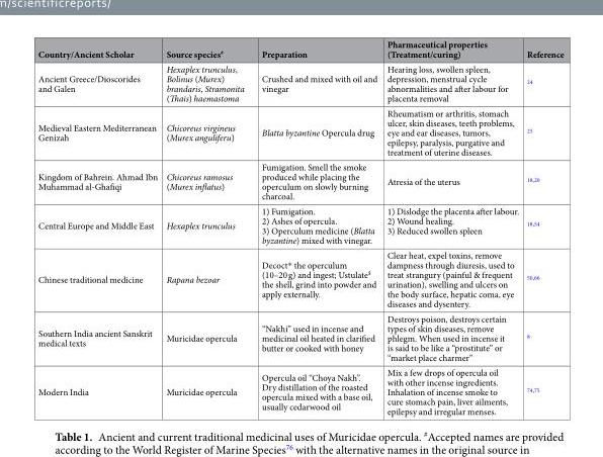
<table><thead><tr><td>Country/Ancient Scholar</td><td>Source species<sup>#</sup></td><td>Preparation</td><td>Pharmaceutical properties (Treatment/curing)</td><td>Reference</td></tr></thead><tbody><tr><td>Ancient Greece/Dioscorides and Galen</td><td>Hexaplex trunculus, Bolinus (Murex) brandaris, Stramonita (Thais) haemastoma</td><td>Crushed and mixed with oil and vinegar</td><td>Hearing loss, swollen spleen, depression, menstrual cycle abnormalities and after labour for placenta removal</td><td><sup>24</sup></td></tr><tr><td>Medieval Eastern Mediterranean Genizah</td><td>Chicoreus virgineus (Murex anguliferu)</td><td>Blatta byzantine Opercula drug</td><td>Rheumatism or arthritis, stomach ulcer, skin diseases, teeth problems, eye and ear diseases, tumors, epilepsy, paralysis, purgative and treatment of uterine diseases.</td><td><sup>25</sup></td></tr><tr><td>Kingdom of Bahrein. Ahmad Ibn Muhammad al-Ghafiqi</td><td>Chicoreus ramosus (Murex inflatus)</td><td>Fumigation. Smell the smoke produced while placing the operculum on slowly burning charcoal.</td><td>Atresia of the uterus</td><td><sup>18,20</sup></td></tr><tr><td>Central Europe and Middle East</td><td>Hexaplex trunculus</td><td>1) Fumigation. 2) Ashes of opercula. 3) Operculum medicine (Blatta byzantine) mixed with vinegar.</td><td>1) Dislodge the placenta after labour. 2) Wound healing. 3) Reduced swollen spleen</td><td><sup>18,54</sup></td></tr><tr><td>Chinese traditional medicine</td><td>Rapana bezoar</td><td>Decoct* the operculum (10–20 g) and ingest; Ustulate<sup>$</sup> the shell, grind into powder and apply externally.</td><td>Clear heat, expel toxins, remove dampness through diuresis, used to treat strangury (painful &amp; frequent urination), swelling and ulcers on the body surface, hepatic coma, eye diseases and dysentery.</td><td><sup>50,66</sup></td></tr><tr><td>Southern India ancient Sanskrit medical texts</td><td>Muricidae opercula</td><td>“Nakhi” used in incense and medicinal oil heated in clarified butter or cooked with honey</td><td>Destroys poison, destroys certain types of skin diseases, remove phlegm. When used in incense it is said to be like a “prostitute” or “market place charmer”</td><td><sup>8</sup></td></tr><tr><td>Modern India</td><td>Muricidae opercula</td><td>Opercula oil “Choya Nakh”. Dry distillation of the roasted opercula mixed with a base oil, usually cedarwood oil</td><td>Mix a few drops of opercula oil with other incense ingredients. Inhalation of incense smoke to cure stomach pain, liver ailments, epilepsy and irregular menses.</td><td><sup>74,75</sup></td></tr></tbody></table>